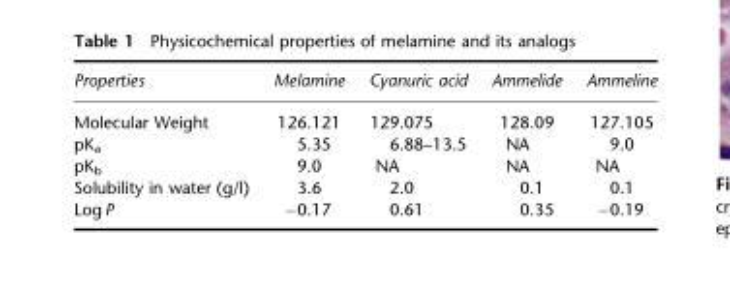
<table><thead><tr><td>Properties</td><td>Melamine</td><td>Cyanuric acid</td><td>Ammelide</td><td>Ammeline</td></tr></thead><tbody><tr><td>Molecular Weight</td><td>126.121</td><td>129.075</td><td>128.09</td><td>127.105</td></tr><tr><td>pK<sub>a</sub></td><td>5.35</td><td>6.88–13.5</td><td>NA</td><td>9.0</td></tr><tr><td>pK<sub>b</sub></td><td>9.0</td><td>NA</td><td>NA</td><td>NA</td></tr><tr><td>Solubility in water (g/l)</td><td>3.6</td><td>2.0</td><td>0.1</td><td>0.1</td></tr><tr><td>Log P</td><td>−0.17</td><td>0.61</td><td>0.35</td><td>−0.19</td></tr></tbody></table>